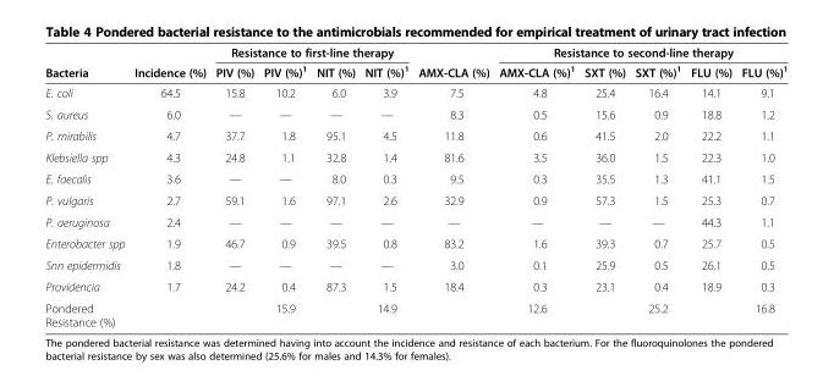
<table><thead><tr><td rowspan="2">Bacteria</td><td rowspan="2">Incidence (%)</td><td colspan="4">Resistance to first-line therapy</td><td rowspan="2">AMX-CLA (%)</td><td colspan="5">Resistance to second-line therapy</td></tr><tr><td>PIV (%)</td><td>PIV (%)<sup>1</sup></td><td>NIT (%)</td><td>NIT (%)<sup>1</sup></td><td>AMX-CLA (%)<sup>1</sup></td><td>SXT (%)</td><td>SXT (%)<sup>1</sup></td><td>FLU (%)</td><td>FLU (%)<sup>1</sup></td></tr></thead><tbody><tr><td>E. coli</td><td>64.5</td><td>15.8</td><td>10.2</td><td>6.0</td><td>3.9</td><td>7.5</td><td>4.8</td><td>25.4</td><td>16.4</td><td>14.1</td><td>9.1</td></tr><tr><td>S. aureus</td><td>6.0</td><td>—</td><td>—</td><td>—</td><td>—</td><td>8.3</td><td>0.5</td><td>15.6</td><td>0.9</td><td>18.8</td><td>1.2</td></tr><tr><td>P. mirabilis</td><td>4.7</td><td>37.7</td><td>1.8</td><td>95.1</td><td>4.5</td><td>11.8</td><td>0.6</td><td>41.5</td><td>2.0</td><td>22.2</td><td>1.1</td></tr><tr><td>Klebsiella spp</td><td>4.3</td><td>24.8</td><td>1.1</td><td>32.8</td><td>1.4</td><td>81.6</td><td>3.5</td><td>36.0</td><td>1.5</td><td>22.3</td><td>1.0</td></tr><tr><td>E. faecalis</td><td>3.6</td><td>—</td><td>—</td><td>8.0</td><td>0.3</td><td>9.5</td><td>0.3</td><td>35.5</td><td>1.3</td><td>41.1</td><td>1.5</td></tr><tr><td>P. vulgaris</td><td>2.7</td><td>59.1</td><td>1.6</td><td>97.1</td><td>2.6</td><td>32.9</td><td>0.9</td><td>57.3</td><td>1.5</td><td>25.3</td><td>0.7</td></tr><tr><td>P. aeruginosa</td><td>2.4</td><td>—</td><td>—</td><td>—</td><td>—</td><td>—</td><td>—</td><td>—</td><td>—</td><td>44.3</td><td>1.1</td></tr><tr><td>Enterobacter spp</td><td>1.9</td><td>46.7</td><td>0.9</td><td>39.5</td><td>0.8</td><td>83.2</td><td>1.6</td><td>39.3</td><td>0.7</td><td>25.7</td><td>0.5</td></tr><tr><td>Snn epidermidis</td><td>1.8</td><td>—</td><td>—</td><td>—</td><td>—</td><td>3.0</td><td>0.1</td><td>25.9</td><td>0.5</td><td>26.1</td><td>0.5</td></tr><tr><td>Providencia</td><td>1.7</td><td>24.2</td><td>0.4</td><td>87.3</td><td>1.5</td><td>18.4</td><td>0.3</td><td>23.1</td><td>0.4</td><td>18.9</td><td>0.3</td></tr><tr><td>Pondered Resistance (%)</td><td></td><td></td><td>15.9</td><td></td><td>14.9</td><td></td><td>12.6</td><td></td><td>25.2</td><td></td><td>16.8</td></tr></tbody></table>